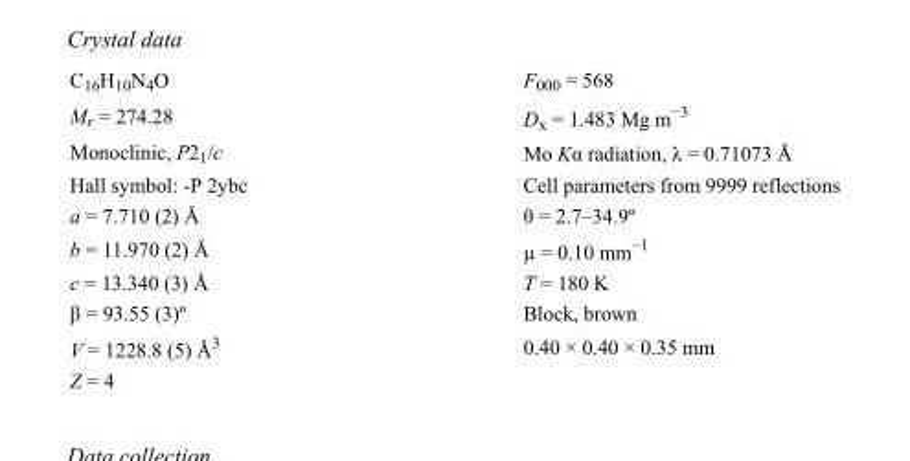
<table><tbody><tr><td>C<sub>16</sub>H<sub>10</sub>N<sub>4</sub>O</td><td>F000 = 568</td></tr><tr><td>M<sub>r</sub> = 274.28</td><td>D<sub>x</sub> = 1.483 Mg m<sup>−3</sup></td></tr><tr><td>Monoclinic, P2<sub>1</sub>/c</td><td>Mo Kα radiation, λ = 0.71073 Å</td></tr><tr><td>Hall symbol: -P 2ybc</td><td>Cell parameters from 9999 reflections</td></tr><tr><td>a = 7.710 (2) Å</td><td>θ = 2.7–34.9º</td></tr><tr><td>b = 11.970 (2) Å</td><td>µ = 0.10 mm<sup>−1</sup></td></tr><tr><td>c = 13.340 (3) Å</td><td>T = 180 K</td></tr><tr><td>β = 93.55 (3)º</td><td>Block, brown</td></tr><tr><td>V = 1228.8 (5) Å<sup>3</sup></td><td>0.40 × 0.40 × 0.35 mm</td></tr><tr><td>Z = 4</td><td></td></tr></tbody></table>